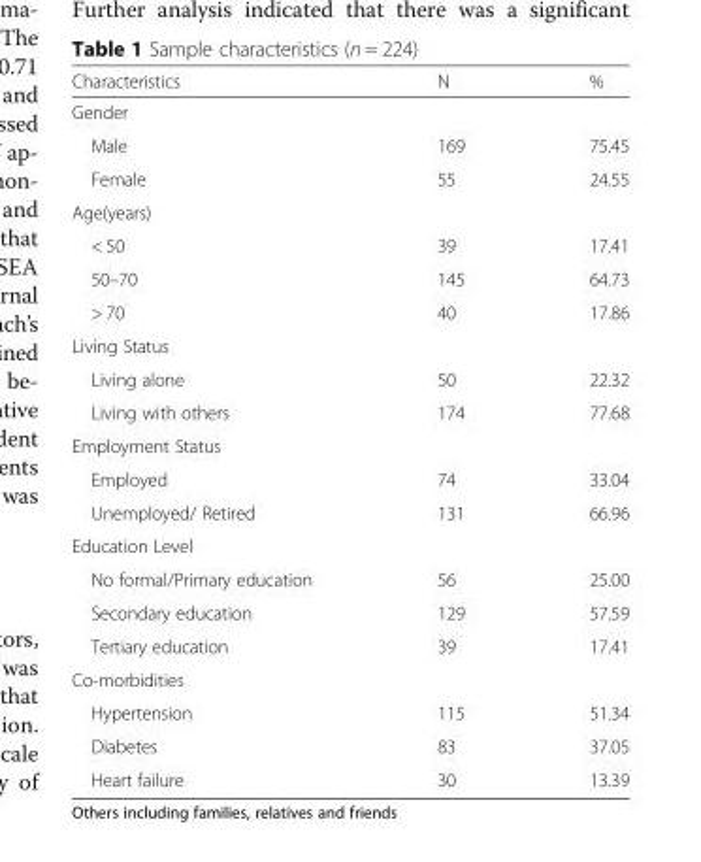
<table><thead><tr><td>Characteristics</td><td>N</td><td>%</td></tr></thead><tbody><tr><td colspan="3">Gender</td></tr><tr><td>Male</td><td>169</td><td>75.45</td></tr><tr><td>Female</td><td>55</td><td>24.55</td></tr><tr><td colspan="3">Age(years)</td></tr><tr><td>&lt; 50</td><td>39</td><td>17.41</td></tr><tr><td>50–70</td><td>145</td><td>64.73</td></tr><tr><td>&gt; 70</td><td>40</td><td>17.86</td></tr><tr><td colspan="3">Living Status</td></tr><tr><td>Living alone</td><td>50</td><td>22.32</td></tr><tr><td>Living with others</td><td>174</td><td>77.68</td></tr><tr><td colspan="3">Employment Status</td></tr><tr><td>Employed</td><td>74</td><td>33.04</td></tr><tr><td>Unemployed/ Retired</td><td>131</td><td>66.96</td></tr><tr><td colspan="3">Education Level</td></tr><tr><td>No formal/Primary education</td><td>56</td><td>25.00</td></tr><tr><td>Secondary education</td><td>129</td><td>57.59</td></tr><tr><td>Tertiary education</td><td>39</td><td>17.41</td></tr><tr><td colspan="3">Co-morbidities</td></tr><tr><td>Hypertension</td><td>115</td><td>51.34</td></tr><tr><td>Diabetes</td><td>83</td><td>37.05</td></tr><tr><td>Heart failure</td><td>30</td><td>13.39</td></tr></tbody></table>